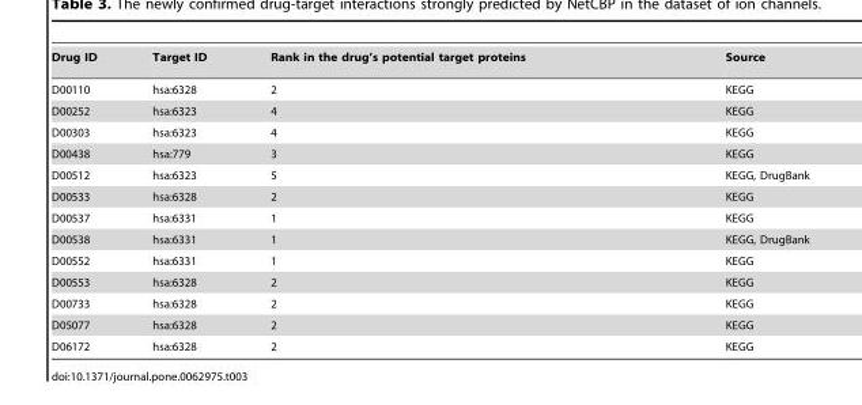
<table><tbody><tr><td>Drug ID</td><td>Target ID</td><td>Rank in the drug’s potential target proteins</td><td>Source</td></tr><tr><td>D00110</td><td>hsa:6328</td><td>2</td><td>KEGG</td></tr><tr><td>D00252</td><td>hsa:6323</td><td>4</td><td>KEGG</td></tr><tr><td>D00303</td><td>hsa:6323</td><td>4</td><td>KEGG</td></tr><tr><td>D00438</td><td>hsa:779</td><td>3</td><td>KEGG</td></tr><tr><td>D00512</td><td>hsa:6323</td><td>5</td><td>KEGG, DrugBank</td></tr><tr><td>D00533</td><td>hsa:6328</td><td>2</td><td>KEGG</td></tr><tr><td>D00537</td><td>hsa:6331</td><td>1</td><td>KEGG</td></tr><tr><td>D00538</td><td>hsa:6331</td><td>1</td><td>KEGG, DrugBank</td></tr><tr><td>D00552</td><td>hsa:6331</td><td>1</td><td>KEGG</td></tr><tr><td>D00553</td><td>hsa:6328</td><td>2</td><td>KEGG</td></tr><tr><td>D00733</td><td>hsa:6328</td><td>2</td><td>KEGG</td></tr><tr><td>D05077</td><td>hsa:6328</td><td>2</td><td>KEGG</td></tr><tr><td>D06172</td><td>hsa:6328</td><td>2</td><td>KEGG</td></tr></tbody></table>